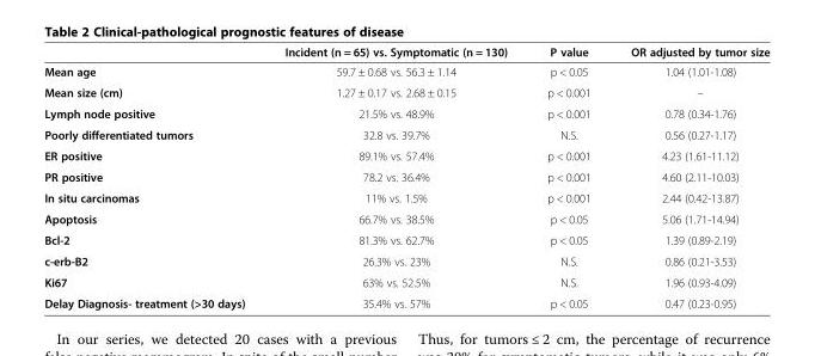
<table><thead><tr><td></td><td>Incident (n = 65) vs. Symptomatic (n = 130)</td><td>P value</td><td>OR adjusted by tumor size</td></tr></thead><tbody><tr><td>Mean age</td><td>59.7 ± 0.68 vs. 56.3 ± 1.14</td><td>p &lt; 0.05</td><td>1.04 (1.01-1.08)</td></tr><tr><td>Mean size (cm)</td><td>1.27 ± 0.17 vs. 2.68 ± 0.15</td><td>p &lt; 0.001</td><td>–</td></tr><tr><td>Lymph node positive</td><td>21.5% vs. 48.9%</td><td>p &lt; 0.001</td><td>0.78 (0.34-1.76)</td></tr><tr><td>Poorly differentiated tumors</td><td>32.8 vs. 39.7%</td><td>N.S.</td><td>0.56 (0.27-1.17)</td></tr><tr><td>ER positive</td><td>89.1% vs. 57.4%</td><td>p &lt; 0.001</td><td>4.23 (1.61-11.12)</td></tr><tr><td>PR positive</td><td>78.2 vs. 36.4%</td><td>p &lt; 0.001</td><td>4.60 (2.11-10.03)</td></tr><tr><td>In situ carcinomas</td><td>11% vs. 1.5%</td><td>p &lt; 0.001</td><td>2.44 (0.42-13.87)</td></tr><tr><td>Apoptosis</td><td>66.7% vs. 38.5%</td><td>p &lt; 0.05</td><td>5.06 (1.71-14.94)</td></tr><tr><td>Bcl-2</td><td>81.3% vs. 62.7%</td><td>p &lt; 0.05</td><td>1.39 (0.89-2.19)</td></tr><tr><td>c-erb-B2</td><td>26.3% vs. 23%</td><td>N.S.</td><td>0.86 (0.21-3.53)</td></tr><tr><td>Ki67</td><td>63% vs. 52.5%</td><td>N.S.</td><td>1.96 (0.93-4.09)</td></tr><tr><td>Delay Diagnosis- treatment (&gt;30 days)</td><td>35.4% vs. 57%</td><td>p &lt; 0.05</td><td>0.47 (0.23-0.95)</td></tr></tbody></table>